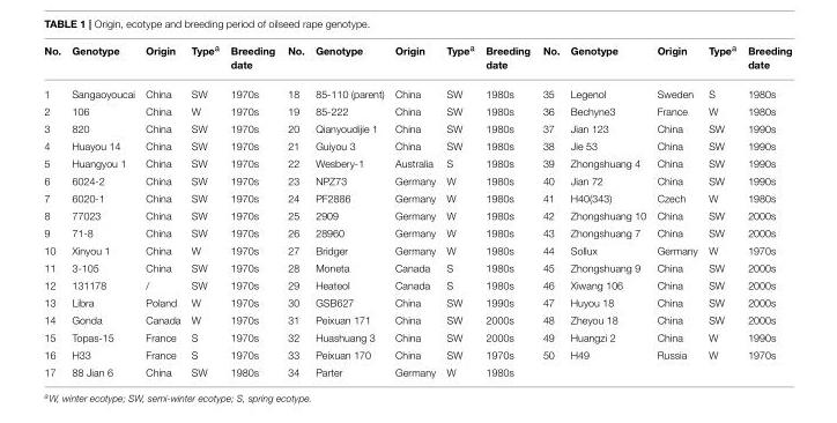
<table><thead><tr><td>No.</td><td>Genotype</td><td>Origin</td><td>Type<sup>a</sup></td><td>Breeding date</td><td>No.</td><td>Genotype</td><td>Origin</td><td>Type<sup>a</sup></td><td>Breeding date</td><td>No.</td><td>Genotype</td><td>Origin</td><td>Type<sup>a</sup></td><td>Breeding date</td></tr></thead><tbody><tr><td>1</td><td>Sangaoyoucai</td><td>China</td><td>SW</td><td>1970s</td><td>18</td><td>85-110 (parent)</td><td>China</td><td>SW</td><td>1980s</td><td>35</td><td>Legenol</td><td>Sweden</td><td>S</td><td>1980s</td></tr><tr><td>2</td><td>106</td><td>China</td><td>W</td><td>1970s</td><td>19</td><td>85-222</td><td>China</td><td>SW</td><td>1980s</td><td>36</td><td>Bechyne3</td><td>France</td><td>W</td><td>1980s</td></tr><tr><td>3</td><td>820</td><td>China</td><td>SW</td><td>1970s</td><td>20</td><td>Qianyoudijie 1</td><td>China</td><td>SW</td><td>1980s</td><td>37</td><td>Jian 123</td><td>China</td><td>SW</td><td>1990s</td></tr><tr><td>4</td><td>Huayou 14</td><td>China</td><td>SW</td><td>1970s</td><td>21</td><td>Guiyou 3</td><td>China</td><td>SW</td><td>1980s</td><td>38</td><td>Jie 53</td><td>China</td><td>SW</td><td>1990s</td></tr><tr><td>5</td><td>Huangyou 1</td><td>China</td><td>SW</td><td>1970s</td><td>22</td><td>Wesbery-1</td><td>Australia</td><td>S</td><td>1980s</td><td>39</td><td>Zhongshuang 4</td><td>China</td><td>SW</td><td>1990s</td></tr><tr><td>6</td><td>6024-2</td><td>China</td><td>SW</td><td>1970s</td><td>23</td><td>NPZ73</td><td>Germany</td><td>W</td><td>1980s</td><td>40</td><td>Jian 72</td><td>China</td><td>SW</td><td>1990s</td></tr><tr><td>7</td><td>6020-1</td><td>China</td><td>SW</td><td>1970s</td><td>24</td><td>PF2886</td><td>Germany</td><td>W</td><td>1980s</td><td>41</td><td>H40(343)</td><td>Czech</td><td>W</td><td>1980s</td></tr><tr><td>8</td><td>77023</td><td>China</td><td>SW</td><td>1970s</td><td>25</td><td>2909</td><td>Germany</td><td>W</td><td>1980s</td><td>42</td><td>Zhongshuang 10</td><td>China</td><td>SW</td><td>2000s</td></tr><tr><td>9</td><td>71-8</td><td>China</td><td>SW</td><td>1970s</td><td>26</td><td>28960</td><td>Germany</td><td>W</td><td>1980s</td><td>43</td><td>Zhongshuang 7</td><td>China</td><td>SW</td><td>2000s</td></tr><tr><td>10</td><td>Xinyou 1</td><td>China</td><td>W</td><td>1970s</td><td>27</td><td>Bridger</td><td>Germany</td><td>W</td><td>1980s</td><td>44</td><td>Sollux</td><td>Germany</td><td>W</td><td>1970s</td></tr><tr><td>11</td><td>3-105</td><td>China</td><td>SW</td><td>1970s</td><td>28</td><td>Moneta</td><td>Canada</td><td>S</td><td>1980s</td><td>45</td><td>Zhongshuang 9</td><td>China</td><td>SW</td><td>2000s</td></tr><tr><td>12</td><td>131178</td><td>/</td><td>SW</td><td>1970s</td><td>29</td><td>Heateol</td><td>Canada</td><td>S</td><td>1980s</td><td>46</td><td>Xiwang 106</td><td>China</td><td>SW</td><td>2000s</td></tr><tr><td>13</td><td>Libra</td><td>Poland</td><td>W</td><td>1970s</td><td>30</td><td>GSB627</td><td>China</td><td>SW</td><td>1990s</td><td>47</td><td>Huyou 18</td><td>China</td><td>SW</td><td>2000s</td></tr><tr><td>14</td><td>Gonda</td><td>Canada</td><td>W</td><td>1970s</td><td>31</td><td>Peixuan 171</td><td>China</td><td>SW</td><td>2000s</td><td>48</td><td>Zheyou 18</td><td>China</td><td>SW</td><td>2000s</td></tr><tr><td>15</td><td>Topas-15</td><td>France</td><td>S</td><td>1970s</td><td>32</td><td>Huashuang 3</td><td>China</td><td>SW</td><td>2000s</td><td>49</td><td>Huangzi 2</td><td>China</td><td>W</td><td>1990s</td></tr><tr><td>16</td><td>H33</td><td>France</td><td>S</td><td>1970s</td><td>33</td><td>Peixuan 170</td><td>China</td><td>SW</td><td>1970s</td><td>50</td><td>H49</td><td>Russia</td><td>W</td><td>1970s</td></tr><tr><td>17</td><td>88 Jian 6</td><td>China</td><td>SW</td><td>1980s</td><td>34</td><td>Parter</td><td>Germany</td><td>W</td><td>1980s</td><td></td><td></td><td></td><td></td><td></td></tr></tbody></table>